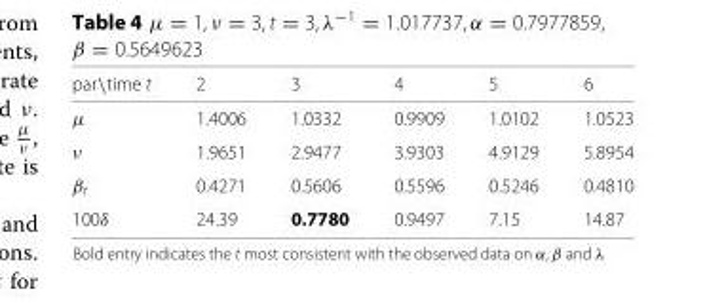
<table><thead><tr><td>par\time t</td><td>2</td><td>3</td><td>4</td><td>5</td><td>6</td></tr></thead><tbody><tr><td>μ</td><td>1.4006</td><td>1.0332</td><td>0.9909</td><td>1.0102</td><td>1.0523</td></tr><tr><td>ν</td><td>1.9651</td><td>2.9477</td><td>3.9303</td><td>4.9129</td><td>5.8954</td></tr><tr><td>β<sub>t</sub></td><td>0.4271</td><td>0.5606</td><td>0.5596</td><td>0.5246</td><td>0.4810</td></tr><tr><td>100δ</td><td>24.39</td><td>0.7780</td><td>0.9497</td><td>7.15</td><td>14.87</td></tr></tbody></table>